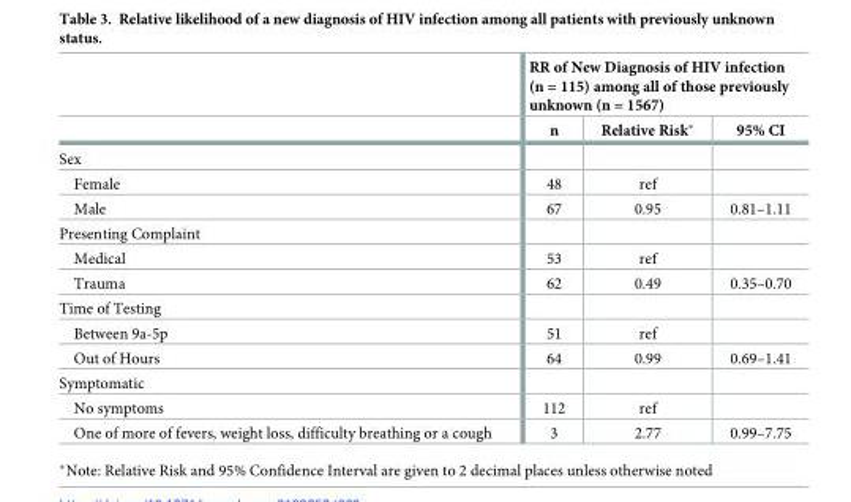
<table><thead><tr><td rowspan="2"></td><td colspan="3">RR of New Diagnosis of HIV infection (n = 115) among all of those previously unknown (n = 1567)</td></tr><tr><td>n</td><td>Relative Risk*</td><td>95% CI</td></tr></thead><tbody><tr><td colspan="4">Sex</td></tr><tr><td>Female</td><td>48</td><td>ref</td><td></td></tr><tr><td>Male</td><td>67</td><td>0.95</td><td>0.81–1.11</td></tr><tr><td colspan="4">Presenting Complaint</td></tr><tr><td>Medical</td><td>53</td><td>ref</td><td></td></tr><tr><td>Trauma</td><td>62</td><td>0.49</td><td>0.35–0.70</td></tr><tr><td colspan="4">Time of Testing</td></tr><tr><td>Between 9a-5p</td><td>51</td><td>ref</td><td></td></tr><tr><td>Out of Hours</td><td>64</td><td>0.99</td><td>0.69–1.41</td></tr><tr><td colspan="4">Symptomatic</td></tr><tr><td>No symptoms</td><td>112</td><td>ref</td><td></td></tr><tr><td>One of more of fevers, weight loss, difficulty breathing or a cough</td><td>3</td><td>2.77</td><td>0.99–7.75</td></tr></tbody></table>